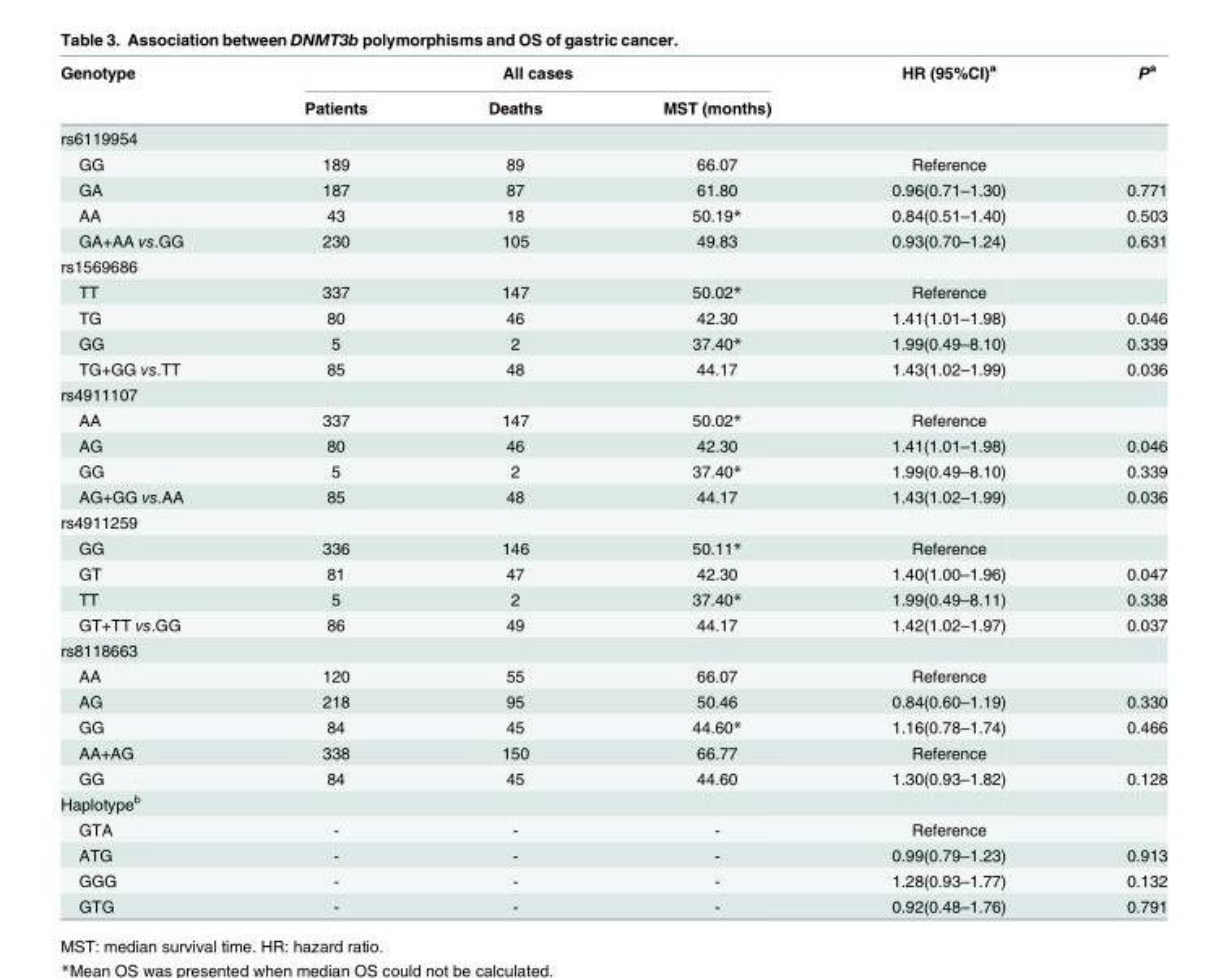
<table><thead><tr><td rowspan="2">Genotype</td><td colspan="3">All cases</td><td rowspan="2">HR (95%CI)<sup>a</sup></td><td rowspan="2">P<sup>a</sup></td></tr><tr><td>Patients</td><td>Deaths</td><td>MST (months)</td></tr></thead><tbody><tr><td colspan="6">rs6119954</td></tr><tr><td>GG</td><td>189</td><td>89</td><td>66.07</td><td>Reference</td><td></td></tr><tr><td>GA</td><td>187</td><td>87</td><td>61.80</td><td>0.96(0.71–1.30)</td><td>0.771</td></tr><tr><td>AA</td><td>43</td><td>18</td><td>50.19*</td><td>0.84(0.51–1.40)</td><td>0.503</td></tr><tr><td>GA+AA vs.GG</td><td>230</td><td>105</td><td>49.83</td><td>0.93(0.70–1.24)</td><td>0.631</td></tr><tr><td colspan="6">rs1569686</td></tr><tr><td>TT</td><td>337</td><td>147</td><td>50.02*</td><td>Reference</td><td></td></tr><tr><td>TG</td><td>80</td><td>46</td><td>42.30</td><td>1.41(1.01–1.98)</td><td>0.046</td></tr><tr><td>GG</td><td>5</td><td>2</td><td>37.40*</td><td>1.99(0.49–8.10)</td><td>0.339</td></tr><tr><td>TG+GG vs.TT</td><td>85</td><td>48</td><td>44.17</td><td>1.43(1.02–1.99)</td><td>0.036</td></tr><tr><td colspan="6">rs4911107</td></tr><tr><td>AA</td><td>337</td><td>147</td><td>50.02*</td><td>Reference</td><td></td></tr><tr><td>AG</td><td>80</td><td>46</td><td>42.30</td><td>1.41(1.01–1.98)</td><td>0.046</td></tr><tr><td>GG</td><td>5</td><td>2</td><td>37.40*</td><td>1.99(0.49–8.10)</td><td>0.339</td></tr><tr><td>AG+GG vs.AA</td><td>85</td><td>48</td><td>44.17</td><td>1.43(1.02–1.99)</td><td>0.036</td></tr><tr><td colspan="6">rs4911259</td></tr><tr><td>GG</td><td>336</td><td>146</td><td>50.11*</td><td>Reference</td><td></td></tr><tr><td>GT</td><td>81</td><td>47</td><td>42.30</td><td>1.40(1.00–1.96)</td><td>0.047</td></tr><tr><td>TT</td><td>5</td><td>2</td><td>37.40*</td><td>1.99(0.49–8.11)</td><td>0.338</td></tr><tr><td>GT+TT vs.GG</td><td>86</td><td>49</td><td>44.17</td><td>1.42(1.02–1.97)</td><td>0.037</td></tr><tr><td colspan="6">rs8118663</td></tr><tr><td>AA</td><td>120</td><td>55</td><td>66.07</td><td>Reference</td><td></td></tr><tr><td>AG</td><td>218</td><td>95</td><td>50.46</td><td>0.84(0.60–1.19)</td><td>0.330</td></tr><tr><td>GG</td><td>84</td><td>45</td><td>44.60*</td><td>1.16(0.78–1.74)</td><td>0.466</td></tr><tr><td>AA+AG</td><td>338</td><td>150</td><td>66.77</td><td>Reference</td><td></td></tr><tr><td>GG</td><td>84</td><td>45</td><td>44.60</td><td>1.30(0.93–1.82)</td><td>0.128</td></tr><tr><td colspan="6">Haplotype<sup>b</sup></td></tr><tr><td>GTA</td><td>-</td><td>-</td><td>-</td><td>Reference</td><td></td></tr><tr><td>ATG</td><td>-</td><td>-</td><td>-</td><td>0.99(0.79–1.23)</td><td>0.913</td></tr><tr><td>GGG</td><td>-</td><td>-</td><td>-</td><td>1.28(0.93–1.77)</td><td>0.132</td></tr><tr><td>GTG</td><td>-</td><td>-</td><td>-</td><td>0.92(0.48–1.76)</td><td>0.791</td></tr></tbody></table>